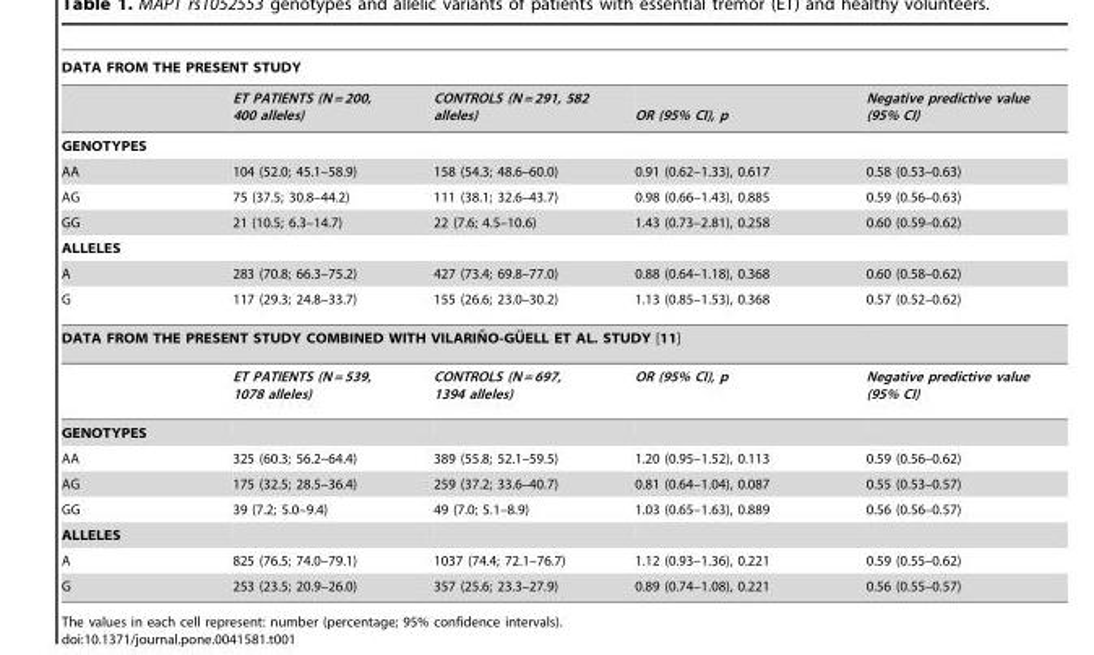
<table><thead><tr><td colspan="5">DATA FROM THE PRESENT STUDY</td></tr><tr><td></td><td>ET PATIENTS (N = 200, 400 alleles)</td><td>CONTROLS (N = 291, 582 alleles)</td><td>OR (95% CI), p</td><td>Negative predictive value (95% CI)</td></tr></thead><tbody><tr><td colspan="5">GENOTYPES</td></tr><tr><td>AA</td><td>104 (52.0; 45.1–58.9)</td><td>158 (54.3; 48.6–60.0)</td><td>0.91 (0.62–1.33), 0.617</td><td>0.58 (0.53–0.63)</td></tr><tr><td>AG</td><td>75 (37.5; 30.8–44.2)</td><td>111 (38.1; 32.6–43.7)</td><td>0.98 (0.66–1.43), 0.885</td><td>0.59 (0.56–0.63)</td></tr><tr><td>GG</td><td>21 (10.5; 6.3–14.7)</td><td>22 (7.6; 4.5–10.6)</td><td>1.43 (0.73–2.81), 0.258</td><td>0.60 (0.59–0.62)</td></tr><tr><td colspan="5">ALLELES</td></tr><tr><td>A</td><td>283 (70.8; 66.3–75.2)</td><td>427 (73.4; 69.8–77.0)</td><td>0.88 (0.64–1.18), 0.368</td><td>0.60 (0.58–0.62)</td></tr><tr><td>G</td><td>117 (29.3; 24.8–33.7)</td><td>155 (26.6; 23.0–30.2)</td><td>1.13 (0.85–1.53), 0.368</td><td>0.57 (0.52–0.62)</td></tr><tr><td colspan="5">DATA FROM THE PRESENT STUDY COMBINED WITH VILARIN˜ O-GU¨ ELL ET AL. STUDY [11]</td></tr><tr><td></td><td>ET PATIENTS (N = 539, 1078 alleles)</td><td>CONTROLS (N = 697, 1394 alleles)</td><td>OR (95% CI), p</td><td>Negative predictive value (95% CI)</td></tr><tr><td colspan="5">GENOTYPES</td></tr><tr><td>AA</td><td>325 (60.3; 56.2–64.4)</td><td>389 (55.8; 52.1–59.5)</td><td>1.20 (0.95–1.52), 0.113</td><td>0.59 (0.56–0.62)</td></tr><tr><td>AG</td><td>175 (32.5; 28.5–36.4)</td><td>259 (37.2; 33.6–40.7)</td><td>0.81 (0.64–1.04), 0.087</td><td>0.55 (0.53–0.57)</td></tr><tr><td>GG</td><td>39 (7.2; 5.0–9.4)</td><td>49 (7.0; 5.1–8.9)</td><td>1.03 (0.65–1.63), 0.889</td><td>0.56 (0.56–0.57)</td></tr><tr><td colspan="5">ALLELES</td></tr><tr><td>A</td><td>825 (76.5; 74.0–79.1)</td><td>1037 (74.4; 72.1–76.7)</td><td>1.12 (0.93–1.36), 0.221</td><td>0.59 (0.55–0.62)</td></tr><tr><td>G</td><td>253 (23.5; 20.9–26.0)</td><td>357 (25.6; 23.3–27.9)</td><td>0.89 (0.74–1.08), 0.221</td><td>0.56 (0.55–0.57)</td></tr></tbody></table>